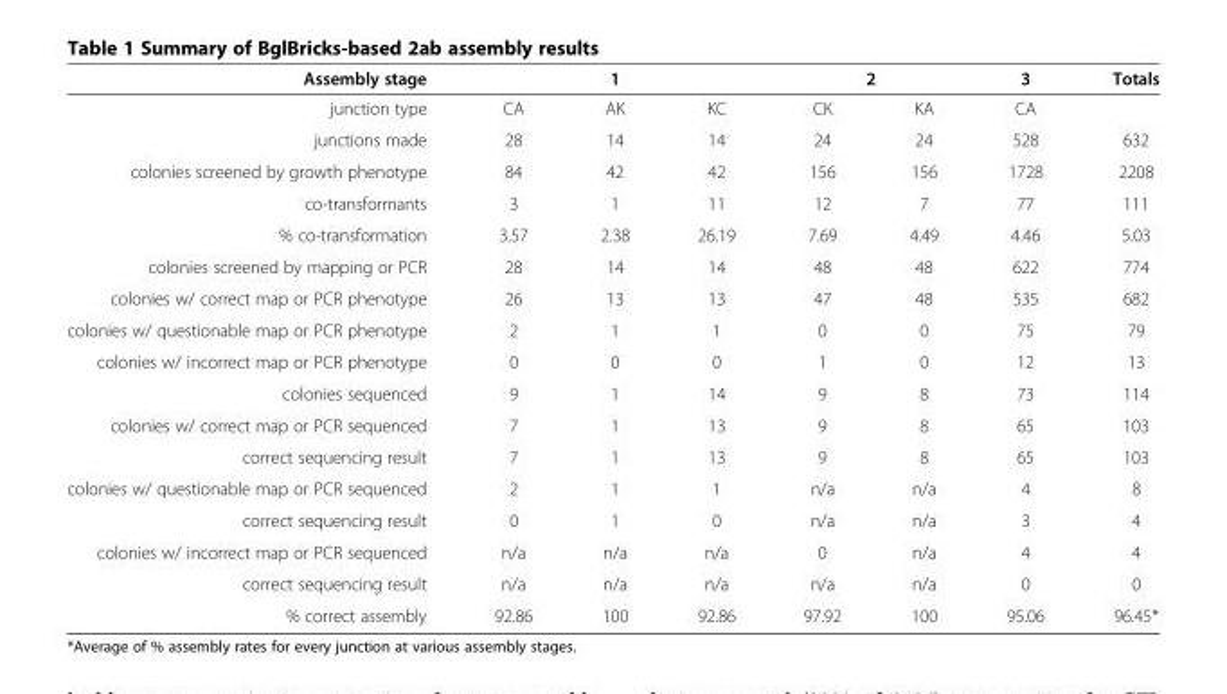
<table><thead><tr><td rowspan="2">Assembly stage junction type</td><td colspan="3">1</td><td colspan="2">2</td><td rowspan="2">3 CA</td><td rowspan="2">Totals</td></tr><tr><td>CA</td><td>AK</td><td>KC</td><td>CK</td><td>KA</td></tr></thead><tbody><tr><td>junctions made</td><td>28</td><td>14</td><td>14</td><td>24</td><td>24</td><td>528</td><td>632</td></tr><tr><td>colonies screened by growth phenotype</td><td>84</td><td>42</td><td>42</td><td>156</td><td>156</td><td>1728</td><td>2208</td></tr><tr><td>co-transformants</td><td>3</td><td>1</td><td>11</td><td>12</td><td>7</td><td>77</td><td>111</td></tr><tr><td>% co-transformation</td><td>3.57</td><td>2.38</td><td>26.19</td><td>7.69</td><td>4.49</td><td>4.46</td><td>5.03</td></tr><tr><td>colonies screened by mapping or PCR</td><td>28</td><td>14</td><td>14</td><td>48</td><td>48</td><td>622</td><td>774</td></tr><tr><td>colonies w/ correct map or PCR phenotype</td><td>26</td><td>13</td><td>13</td><td>47</td><td>48</td><td>535</td><td>682</td></tr><tr><td>colonies w/ questionable map or PCR phenotype</td><td>2</td><td>1</td><td>1</td><td>0</td><td>0</td><td>75</td><td>79</td></tr><tr><td>colonies w/ incorrect map or PCR phenotype</td><td>0</td><td>0</td><td>0</td><td>1</td><td>0</td><td>12</td><td>13</td></tr><tr><td>colonies sequenced</td><td>9</td><td>1</td><td>14</td><td>9</td><td>8</td><td>73</td><td>114</td></tr><tr><td>colonies w/ correct map or PCR sequenced</td><td>7</td><td>1</td><td>13</td><td>9</td><td>8</td><td>65</td><td>103</td></tr><tr><td>correct sequencing result</td><td>7</td><td>1</td><td>13</td><td>9</td><td>8</td><td>65</td><td>103</td></tr><tr><td>colonies w/ questionable map or PCR sequenced</td><td>2</td><td>1</td><td>1</td><td>n/a</td><td>n/a</td><td>4</td><td>8</td></tr><tr><td>correct sequencing result</td><td>0</td><td>1</td><td>0</td><td>n/a</td><td>n/a</td><td>3</td><td>4</td></tr><tr><td>colonies w/ incorrect map or PCR sequenced</td><td>n/a</td><td>n/a</td><td>n/a</td><td>0</td><td>n/a</td><td>4</td><td>4</td></tr><tr><td>correct sequencing result</td><td>n/a</td><td>n/a</td><td>n/a</td><td>n/a</td><td>n/a</td><td>0</td><td>0</td></tr><tr><td>% correct assembly</td><td>92.86</td><td>100</td><td>92.86</td><td>97.92</td><td>100</td><td>95.06</td><td>96.45*</td></tr></tbody></table>